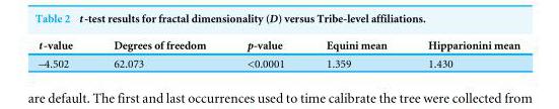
<table><thead><tr><td>t-value</td><td>Degrees of freedom</td><td>p-value</td><td>Equini mean</td><td>Hipparionini mean</td></tr></thead><tbody><tr><td>–4.502</td><td>62.073</td><td>&lt;0.0001</td><td>1.359</td><td>1.430</td></tr></tbody></table>